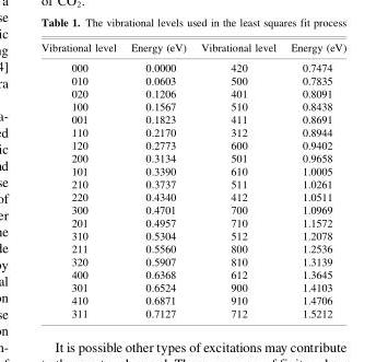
<table><thead><tr><td>Vibrational level</td><td>Energy (eV)</td><td>Vibrational level</td><td>Energy (eV)</td></tr></thead><tbody><tr><td>000</td><td>0.0000</td><td>420</td><td>0.7474</td></tr><tr><td>010</td><td>0.0603</td><td>500</td><td>0.7835</td></tr><tr><td>020</td><td>0.1206</td><td>401</td><td>0.8091</td></tr><tr><td>100</td><td>0.1567</td><td>510</td><td>0.8438</td></tr><tr><td>001</td><td>0.1823</td><td>411</td><td>0.8691</td></tr><tr><td>110</td><td>0.2170</td><td>312</td><td>0.8944</td></tr><tr><td>120</td><td>0.2773</td><td>600</td><td>0.9402</td></tr><tr><td>200</td><td>0.3134</td><td>501</td><td>0.9658</td></tr><tr><td>101</td><td>0.3390</td><td>610</td><td>1.0005</td></tr><tr><td>210</td><td>0.3737</td><td>511</td><td>1.0261</td></tr><tr><td>220</td><td>0.4340</td><td>412</td><td>1.0511</td></tr><tr><td>300</td><td>0.4701</td><td>700</td><td>1.0969</td></tr><tr><td>201</td><td>0.4957</td><td>710</td><td>1.1572</td></tr><tr><td>310</td><td>0.5304</td><td>512</td><td>1.2078</td></tr><tr><td>211</td><td>0.5560</td><td>800</td><td>1.2536</td></tr><tr><td>320</td><td>0.5907</td><td>810</td><td>1.3139</td></tr><tr><td>400</td><td>0.6368</td><td>612</td><td>1.3645</td></tr><tr><td>301</td><td>0.6524</td><td>900</td><td>1.4103</td></tr><tr><td>410</td><td>0.6871</td><td>910</td><td>1.4706</td></tr><tr><td>311</td><td>0.7127</td><td>712</td><td>1.5212</td></tr></tbody></table>